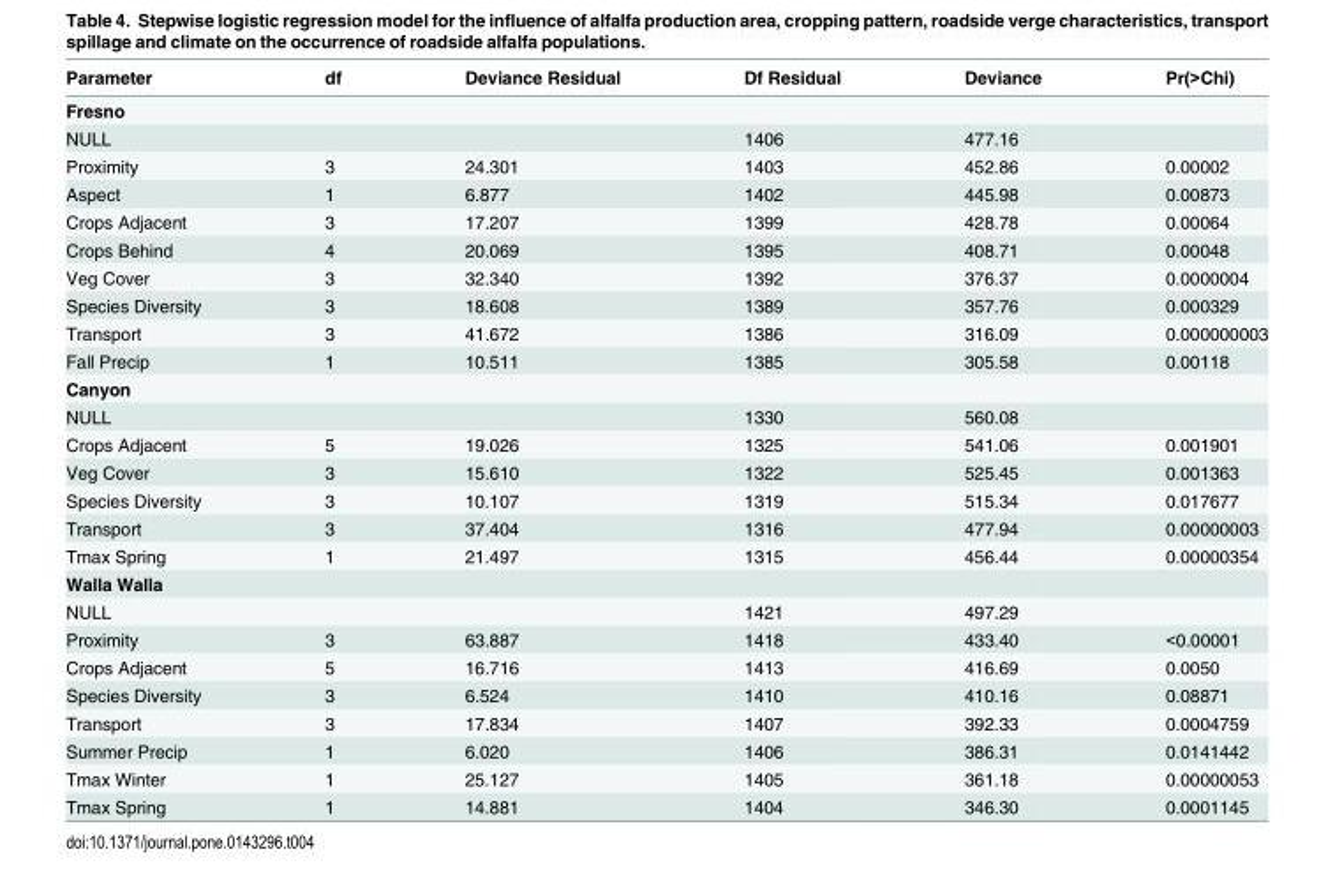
<table><thead><tr><td>Parameter</td><td>df</td><td>Deviance Residual</td><td>Df Residual</td><td>Deviance</td><td>Pr(&gt;Chi)</td></tr></thead><tbody><tr><td colspan="6">Fresno</td></tr><tr><td>NULL</td><td></td><td></td><td>1406</td><td>477.16</td><td></td></tr><tr><td>Proximity</td><td>3</td><td>24.301</td><td>1403</td><td>452.86</td><td>0.00002</td></tr><tr><td>Aspect</td><td>1</td><td>6.877</td><td>1402</td><td>445.98</td><td>0.00873</td></tr><tr><td>Crops Adjacent</td><td>3</td><td>17.207</td><td>1399</td><td>428.78</td><td>0.00064</td></tr><tr><td>Crops Behind</td><td>4</td><td>20.069</td><td>1395</td><td>408.71</td><td>0.00048</td></tr><tr><td>Veg Cover</td><td>3</td><td>32.340</td><td>1392</td><td>376.37</td><td>0.0000004</td></tr><tr><td>Species Diversity</td><td>3</td><td>18.608</td><td>1389</td><td>357.76</td><td>0.000329</td></tr><tr><td>Transport</td><td>3</td><td>41.672</td><td>1386</td><td>316.09</td><td>0.000000003</td></tr><tr><td>Fall Precip</td><td>1</td><td>10.511</td><td>1385</td><td>305.58</td><td>0.00118</td></tr><tr><td colspan="6">Canyon</td></tr><tr><td>NULL</td><td></td><td></td><td>1330</td><td>560.08</td><td></td></tr><tr><td>Crops Adjacent</td><td>5</td><td>19.026</td><td>1325</td><td>541.06</td><td>0.001901</td></tr><tr><td>Veg Cover</td><td>3</td><td>15.610</td><td>1322</td><td>525.45</td><td>0.001363</td></tr><tr><td>Species Diversity</td><td>3</td><td>10.107</td><td>1319</td><td>515.34</td><td>0.017677</td></tr><tr><td>Transport</td><td>3</td><td>37.404</td><td>1316</td><td>477.94</td><td>0.00000003</td></tr><tr><td>Tmax Spring</td><td>1</td><td>21.497</td><td>1315</td><td>456.44</td><td>0.00000354</td></tr><tr><td colspan="6">Walla Walla</td></tr><tr><td>NULL</td><td></td><td></td><td>1421</td><td>497.29</td><td></td></tr><tr><td>Proximity</td><td>3</td><td>63.887</td><td>1418</td><td>433.40</td><td>&lt;0.00001</td></tr><tr><td>Crops Adjacent</td><td>5</td><td>16.716</td><td>1413</td><td>416.69</td><td>0.0050</td></tr><tr><td>Species Diversity</td><td>3</td><td>6.524</td><td>1410</td><td>410.16</td><td>0.08871</td></tr><tr><td>Transport</td><td>3</td><td>17.834</td><td>1407</td><td>392.33</td><td>0.0004759</td></tr><tr><td>Summer Precip</td><td>1</td><td>6.020</td><td>1406</td><td>386.31</td><td>0.0141442</td></tr><tr><td>Tmax Winter</td><td>1</td><td>25.127</td><td>1405</td><td>361.18</td><td>0.00000053</td></tr><tr><td>Tmax Spring</td><td>1</td><td>14.881</td><td>1404</td><td>346.30</td><td>0.0001145</td></tr></tbody></table>